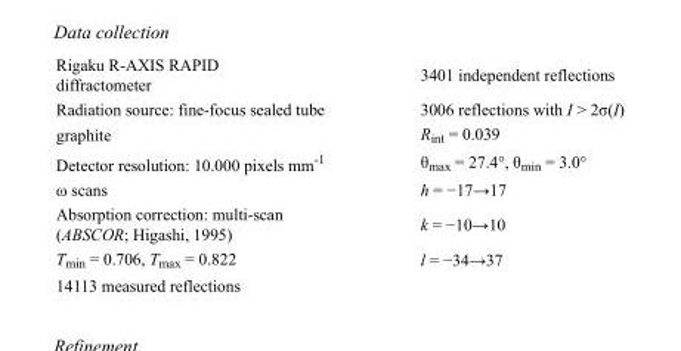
<table><tbody><tr><td>Rigaku R-AXIS RAPID diffractometer</td><td>3401 independent reflections</td></tr><tr><td>Radiation source: fine-focus sealed tube</td><td>3006 reflections with I &gt; 2σ(I)</td></tr><tr><td>graphite</td><td>R<sub>int</sub> = 0.039</td></tr><tr><td>Detector resolution: 10.000 pixels mm<sup>-1</sup></td><td>θ<sub>max</sub> = 27.4°, θ<sub>min</sub> = 3.0°</td></tr><tr><td>ω scans</td><td>h = −17→17</td></tr><tr><td>Absorption correction: multi-scan (ABSCOR; Higashi, 1995)</td><td>k = −10→10</td></tr><tr><td>T<sub>min</sub> = 0.706, T<sub>max</sub> = 0.822</td><td>l = −34→37</td></tr><tr><td>14113 measured reflections</td><td></td></tr></tbody></table>